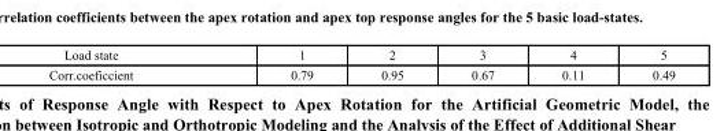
<table><tbody><tr><td>Load state</td><td>1</td><td>2</td><td>3</td><td>4</td><td>5</td></tr><tr><td>Corr.coeficcient</td><td>0.79</td><td>0.95</td><td>0.67</td><td>0.11</td><td>0.49</td></tr></tbody></table>